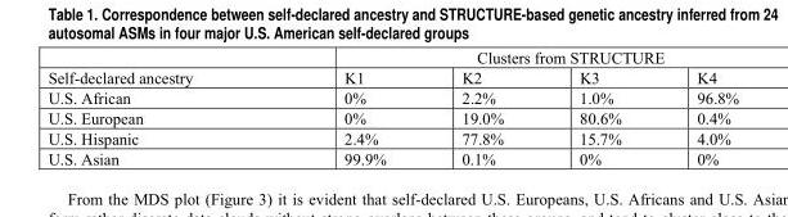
<table><thead><tr><td rowspan="2">Self-declared ancestry</td><td colspan="4">Clusters from STRUCTURE</td></tr><tr><td>K1</td><td>K2</td><td>K3</td><td>K4</td></tr></thead><tbody><tr><td>U.S. African</td><td>0%</td><td>2.2%</td><td>1.0%</td><td>96.8%</td></tr><tr><td>U.S. European</td><td>0%</td><td>19.0%</td><td>80.6%</td><td>0.4%</td></tr><tr><td>U.S. Hispanic</td><td>2.4%</td><td>77.8%</td><td>15.7%</td><td>4.0%</td></tr><tr><td>U.S. Asian</td><td>99.9%</td><td>0.1%</td><td>0%</td><td>0%</td></tr></tbody></table>